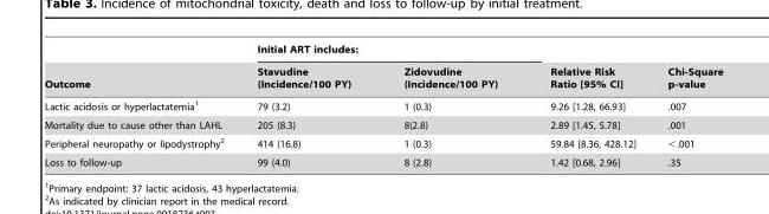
<table><thead><tr><td rowspan="2">Outcome</td><td colspan="2">Initial ART includes:</td><td rowspan="2">Relative Risk Ratio [95% CI]</td><td rowspan="2">Chi-Square p-value</td></tr><tr><td>Stavudine (Incidence/100 PY)</td><td>Zidovudine (Incidence/100 PY)</td></tr></thead><tbody><tr><td>Lactic acidosis or hyperlactatemia<sup>1</sup></td><td>79 (3.2)</td><td>1 (0.3)</td><td>9.26 [1.28, 66.93]</td><td>.007</td></tr><tr><td>Mortality due to cause other than LAHL</td><td>205 (8.3)</td><td>8(2.8)</td><td>2.89 [1.45, 5.78]</td><td>.001</td></tr><tr><td>Peripheral neuropathy or lipodystrophy<sup>2</sup></td><td>414 (16.8)</td><td>1 (0.3)</td><td>59.84 [8.36, 428.12]</td><td>&lt;.001</td></tr><tr><td>Loss to follow-up</td><td>99 (4.0)</td><td>8 (2.8)</td><td>1.42 [0.68, 2.96]</td><td>.35</td></tr></tbody></table>